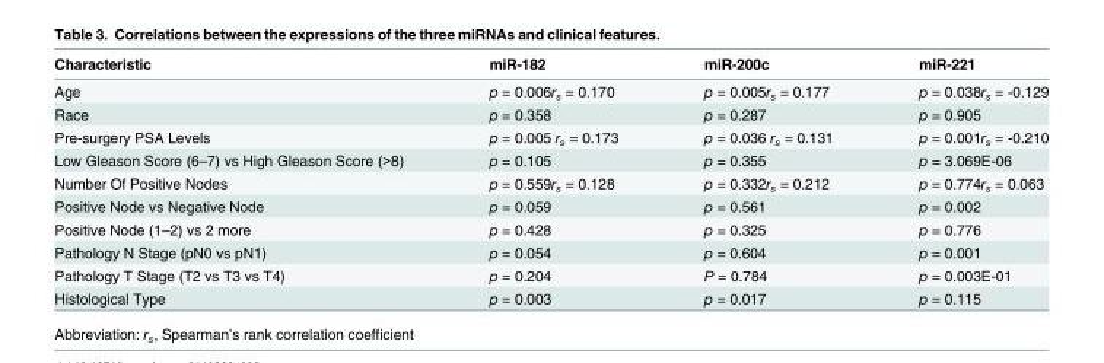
<table><thead><tr><td>Characteristic</td><td>miR-182</td><td>miR-200c</td><td>miR-221</td></tr></thead><tbody><tr><td>Age</td><td>p = 0.006r<sub>s</sub> = 0.170</td><td>p = 0.005r<sub>s</sub> = 0.177</td><td>p = 0.038r<sub>s</sub> = -0.129</td></tr><tr><td>Race</td><td>p = 0.358</td><td>p = 0.287</td><td>p = 0.905</td></tr><tr><td>Pre-surgery PSA Levels</td><td>p = 0.005 r<sub>s</sub> = 0.173</td><td>p = 0.036 r<sub>s</sub> = 0.131</td><td>p = 0.001r<sub>s</sub> = -0.210</td></tr><tr><td>Low Gleason Score (6–7) vs High Gleason Score (&gt;8)</td><td>p = 0.105</td><td>p = 0.355</td><td>p = 3.069E-06</td></tr><tr><td>Number Of Positive Nodes</td><td>p = 0.559r<sub>s</sub> = 0.128</td><td>p = 0.332r<sub>s</sub> = 0.212</td><td>p = 0.774r<sub>s</sub> = 0.063</td></tr><tr><td>Positive Node vs Negative Node</td><td>p = 0.059</td><td>p = 0.561</td><td>p = 0.002</td></tr><tr><td>Positive Node (1–2) vs 2 more</td><td>p = 0.428</td><td>p = 0.325</td><td>p = 0.776</td></tr><tr><td>Pathology N Stage (pN0 vs pN1)</td><td>p = 0.054</td><td>p = 0.604</td><td>p = 0.001</td></tr><tr><td>Pathology T Stage (T2 vs T3 vs T4)</td><td>p = 0.204</td><td>P = 0.784</td><td>p = 0.003E-01</td></tr><tr><td>Histological Type</td><td>p = 0.003</td><td>p = 0.017</td><td>p = 0.115</td></tr></tbody></table>